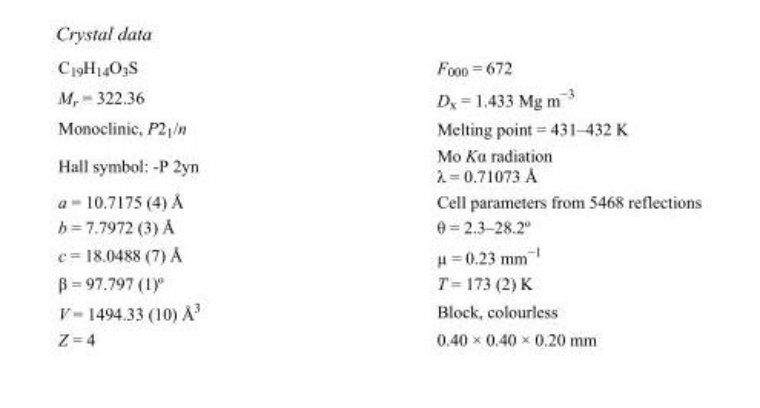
<table><tbody><tr><td>C<sub>19</sub>H<sub>14</sub>O<sub>3</sub>S</td><td>F<sub>000</sub> = 672</td></tr><tr><td>M<sub>r</sub> = 322.36</td><td>D<sub>x</sub> = 1.433 Mg m<sup>−3</sup></td></tr><tr><td>Monoclinic, P2<sub>1</sub>/n</td><td>Melting point = 431–432 K</td></tr><tr><td>Hall symbol: -P 2yn</td><td>Mo Kα radiation λ = 0.71073 Å</td></tr><tr><td>a = 10.7175 (4) Å</td><td>Cell parameters from 5468 reflections</td></tr><tr><td>b = 7.7972 (3) Å</td><td>θ = 2.3–28.2º</td></tr><tr><td>c = 18.0488 (7) Å</td><td>µ = 0.23 mm<sup>−1</sup></td></tr><tr><td>β = 97.797 (1)º</td><td>T = 173 (2) K</td></tr><tr><td>V = 1494.33 (10) Å<sup>3</sup></td><td>Block, colourless</td></tr><tr><td>Z = 4</td><td>0.40 × 0.40 × 0.20 mm</td></tr></tbody></table>